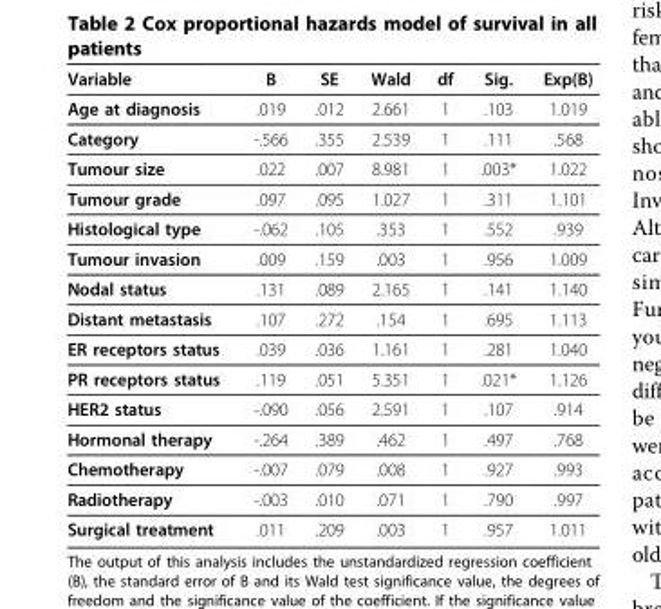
<table><thead><tr><td>Variable</td><td>B</td><td>SE</td><td>Wald</td><td>df</td><td>Sig.</td><td>Exp(B)</td></tr></thead><tbody><tr><td>Age at diagnosis</td><td>.019</td><td>.012</td><td>2.661</td><td>1</td><td>.103</td><td>1.019</td></tr><tr><td>Category</td><td>-.566</td><td>.355</td><td>2.539</td><td>1</td><td>.111</td><td>.568</td></tr><tr><td>Tumour size</td><td>.022</td><td>.007</td><td>8.981</td><td>1</td><td>.003*</td><td>1.022</td></tr><tr><td>Tumour grade</td><td>.097</td><td>.095</td><td>1.027</td><td>1</td><td>.311</td><td>1.101</td></tr><tr><td>Histological type</td><td>-.062</td><td>.105</td><td>.353</td><td>1</td><td>.552</td><td>.939</td></tr><tr><td>Tumour invasion</td><td>.009</td><td>.159</td><td>.003</td><td>1</td><td>.956</td><td>1.009</td></tr><tr><td>Nodal status</td><td>.131</td><td>.089</td><td>2.165</td><td>1</td><td>.141</td><td>1.140</td></tr><tr><td>Distant metastasis</td><td>.107</td><td>.272</td><td>.154</td><td>1</td><td>.695</td><td>1.113</td></tr><tr><td>ER receptors status</td><td>.039</td><td>.036</td><td>1.161</td><td>1</td><td>.281</td><td>1.040</td></tr><tr><td>PR receptors status</td><td>.119</td><td>.051</td><td>5.351</td><td>1</td><td>.021*</td><td>1.126</td></tr><tr><td>HER2 status</td><td>-.090</td><td>.056</td><td>2.591</td><td>1</td><td>.107</td><td>.914</td></tr><tr><td>Hormonal therapy</td><td>-.264</td><td>.389</td><td>.462</td><td>1</td><td>.497</td><td>.768</td></tr><tr><td>Chemotherapy</td><td>-.007</td><td>.079</td><td>.008</td><td>1</td><td>.927</td><td>.993</td></tr><tr><td>Radiotherapy</td><td>-.003</td><td>.010</td><td>.071</td><td>1</td><td>.790</td><td>.997</td></tr><tr><td>Surgical treatment</td><td>.011</td><td>.209</td><td>.003</td><td>1</td><td>.957</td><td>1.011</td></tr></tbody></table>